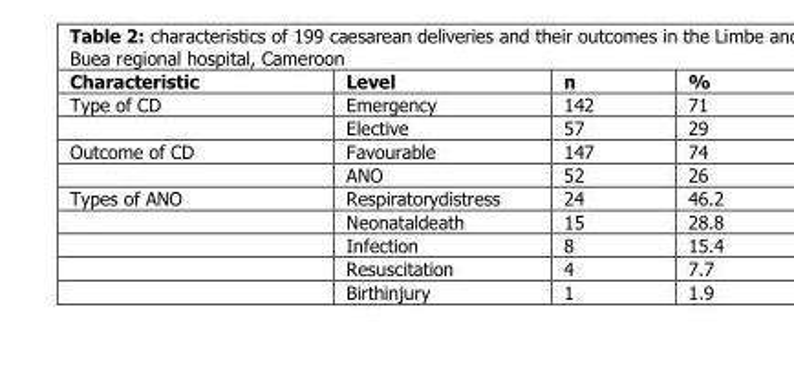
<table><thead><tr><td>Characteristic</td><td>Level</td><td>n</td><td>%</td></tr></thead><tbody><tr><td rowspan="2">Type of CD</td><td>Emergency</td><td>142</td><td>71</td></tr><tr><td>Elective</td><td>57</td><td>29</td></tr><tr><td rowspan="2">Outcome of CD</td><td>Favourable</td><td>147</td><td>74</td></tr><tr><td>ANO</td><td>52</td><td>26</td></tr><tr><td rowspan="5">Types of ANO</td><td>Respiratorydistress</td><td>24</td><td>46.2</td></tr><tr><td>Neonataldeath</td><td>15</td><td>28.8</td></tr><tr><td>Infection</td><td>8</td><td>15.4</td></tr><tr><td>Resuscitation</td><td>4</td><td>7.7</td></tr><tr><td>Birthinjury</td><td>1</td><td>1.9</td></tr></tbody></table>